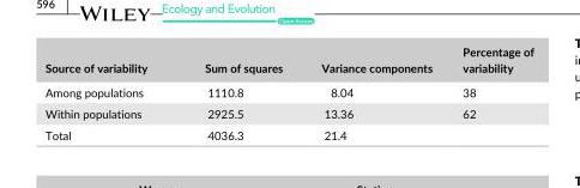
<table><thead><tr><td>Source of variability</td><td>Sum of squares</td><td>Variance components</td><td>Percentage of variability</td></tr></thead><tbody><tr><td>Among populations</td><td>1110.8</td><td>8.04</td><td>38</td></tr><tr><td>Within populations</td><td>2925.5</td><td>13.36</td><td>62</td></tr><tr><td>Total</td><td>4036.3</td><td>21.4</td><td></td></tr></tbody></table>